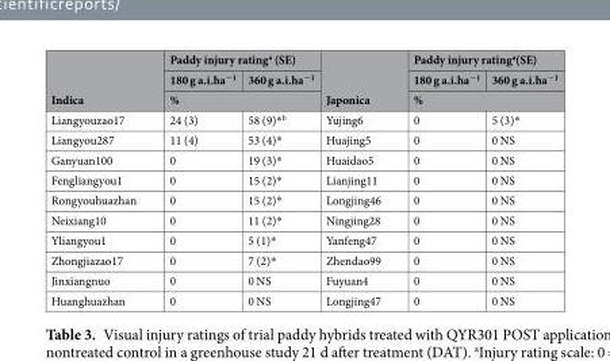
<table><thead><tr><td rowspan="3">Indica</td><td colspan="2">Paddy injury rating<sup>a</sup> (SE)</td><td rowspan="3">Japonica</td><td colspan="2">Paddy injury rating<sup>a</sup>(SE)</td></tr><tr><td>180 g a.i.ha<sup>−1</sup></td><td>360 g a.i.ha<sup>−1</sup></td><td>180 g a.i.ha<sup>−1</sup></td><td>360 g a.i.ha<sup>−1</sup></td></tr><tr><td colspan="2">%</td><td colspan="2">%</td></tr></thead><tbody><tr><td>Liangyouzao17</td><td>24 (3)</td><td>58 (9)*<sup>b</sup></td><td>Yujing6</td><td>0</td><td>5 (3)*</td></tr><tr><td>Liangyou287</td><td>11 (4)</td><td>53 (4)*</td><td>Huajing5</td><td>0</td><td>0 NS</td></tr><tr><td>Ganyuan100</td><td>0</td><td>19 (3)*</td><td>Huaidao5</td><td>0</td><td>0 NS</td></tr><tr><td>Fengliangyou1</td><td>0</td><td>15 (2)*</td><td>Lianjing11</td><td>0</td><td>0 NS</td></tr><tr><td>Rongyouhuazhan</td><td>0</td><td>15 (2)*</td><td>Longjing46</td><td>0</td><td>0 NS</td></tr><tr><td>Neixiang10</td><td>0</td><td>11 (2)*</td><td>Ningjing28</td><td>0</td><td>0 NS</td></tr><tr><td>Yliangyou1</td><td>0</td><td>5 (1)*</td><td>Yanfeng47</td><td>0</td><td>0 NS</td></tr><tr><td>Zhongjiazao17</td><td>0</td><td>7 (2)*</td><td>Zhendao99</td><td>0</td><td>0 NS</td></tr><tr><td>Jinxiangnuo</td><td>0</td><td>0 NS</td><td>Fuyuan4</td><td>0</td><td>0 NS</td></tr><tr><td>Huanghuazhan</td><td>0</td><td>0 NS</td><td>Longjing47</td><td>0</td><td>0 NS</td></tr></tbody></table>